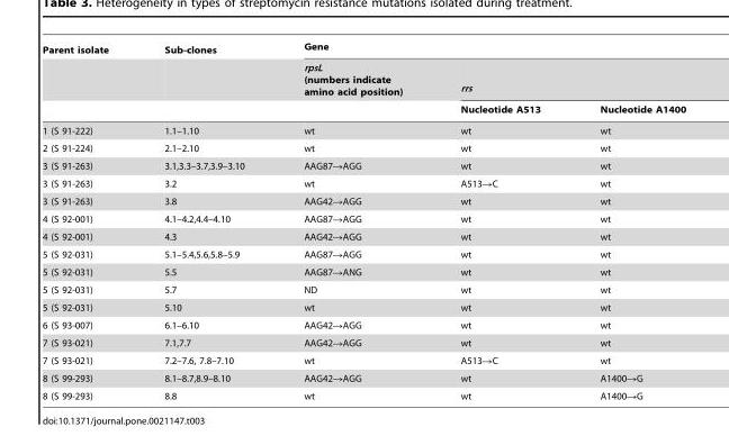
<table><thead><tr><td rowspan="3">Parent isolate</td><td rowspan="3">Sub-clones</td><td colspan="3">Gene</td></tr><tr><td rowspan="2">rpsL (numbers indicate amino acid position)</td><td colspan="2">rrs</td></tr><tr><td>Nucleotide A513</td><td>Nucleotide A1400</td></tr></thead><tbody><tr><td>1 (S 91-222)</td><td>1.1–1.10</td><td>wt</td><td>wt</td><td>wt</td></tr><tr><td>2 (S 91-224)</td><td>2.1–2.10</td><td>wt</td><td>wt</td><td>wt</td></tr><tr><td>3 (S 91-263)</td><td>3.1,3.3–3.7,3.9–3.10</td><td>AAG87→AGG</td><td>wt</td><td>wt</td></tr><tr><td>3 (S 91-263)</td><td>3.2</td><td>wt</td><td>A513→C</td><td>wt</td></tr><tr><td>3 (S 91-263)</td><td>3.8</td><td>AAG42→AGG</td><td>wt</td><td>wt</td></tr><tr><td>4 (S 92-001)</td><td>4.1–4.2,4.4–4.10</td><td>AAG87→AGG</td><td>wt</td><td>wt</td></tr><tr><td>4 (S 92-001)</td><td>4.3</td><td>AAG42→AGG</td><td>wt</td><td>wt</td></tr><tr><td>5 (S 92-031)</td><td>5.1–5.4,5.6,5.8–5.9</td><td>AAG87→AGG</td><td>wt</td><td>wt</td></tr><tr><td>5 (S 92-031)</td><td>5.5</td><td>AAG87→ANG</td><td>wt</td><td>wt</td></tr><tr><td>5 (S 92-031)</td><td>5.7</td><td>ND</td><td>wt</td><td>wt</td></tr><tr><td>5 (S 92-031)</td><td>5.10</td><td>wt</td><td>wt</td><td>wt</td></tr><tr><td>6 (S 93-007)</td><td>6.1–6.10</td><td>AAG42→AGG</td><td>wt</td><td>wt</td></tr><tr><td>7 (S 93-021)</td><td>7.1,7.7</td><td>AAG42→AGG</td><td>wt</td><td>wt</td></tr><tr><td>7 (S 93-021)</td><td>7.2–7.6, 7.8–7.10</td><td>wt</td><td>A513→C</td><td>wt</td></tr><tr><td>8 (S 99-293)</td><td>8.1–8.7,8.9–8.10</td><td>AAG42→AGG</td><td>wt</td><td>A1400→G</td></tr><tr><td>8 (S 99-293)</td><td>8.8</td><td>wt</td><td>wt</td><td>A1400→G</td></tr></tbody></table>